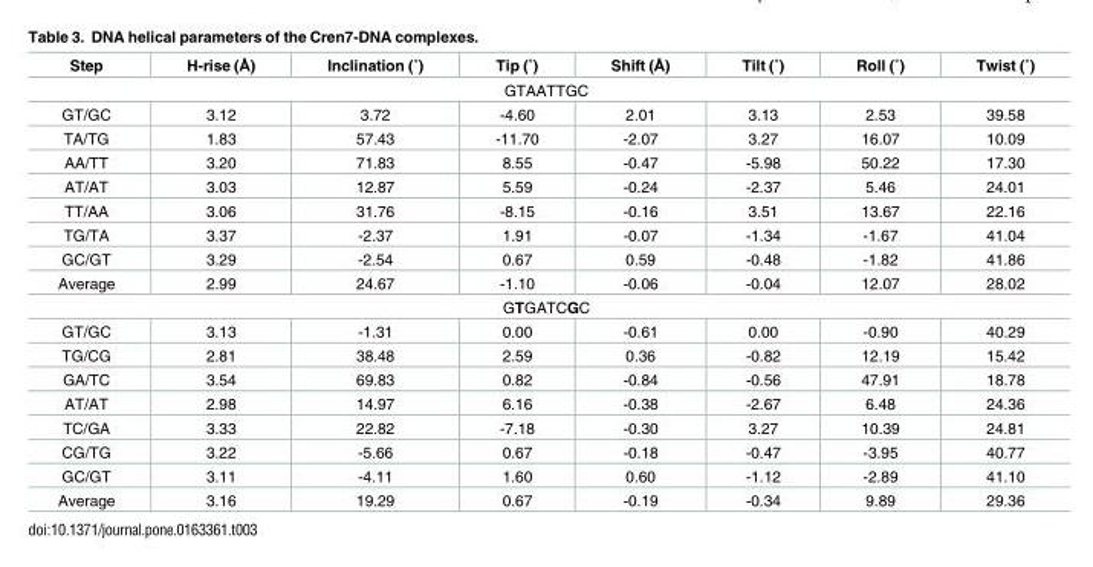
<table><thead><tr><td>Step</td><td>H-rise (Å)</td><td>Inclination (˚)</td><td>Tip (˚)</td><td>Shift (Å)</td><td>Tilt (˚)</td><td>Roll (˚)</td><td>Twist (˚)</td></tr></thead><tbody><tr><td colspan="8">GTAATTGC</td></tr><tr><td>GT/GC</td><td>3.12</td><td>3.72</td><td>-4.60</td><td>2.01</td><td>3.13</td><td>2.53</td><td>39.58</td></tr><tr><td>TA/TG</td><td>1.83</td><td>57.43</td><td>-11.70</td><td>-2.07</td><td>3.27</td><td>16.07</td><td>10.09</td></tr><tr><td>AA/TT</td><td>3.20</td><td>71.83</td><td>8.55</td><td>-0.47</td><td>-5.98</td><td>50.22</td><td>17.30</td></tr><tr><td>AT/AT</td><td>3.03</td><td>12.87</td><td>5.59</td><td>-0.24</td><td>-2.37</td><td>5.46</td><td>24.01</td></tr><tr><td>TT/AA</td><td>3.06</td><td>31.76</td><td>-8.15</td><td>-0.16</td><td>3.51</td><td>13.67</td><td>22.16</td></tr><tr><td>TG/TA</td><td>3.37</td><td>-2.37</td><td>1.91</td><td>-0.07</td><td>-1.34</td><td>-1.67</td><td>41.04</td></tr><tr><td>GC/GT</td><td>3.29</td><td>-2.54</td><td>0.67</td><td>0.59</td><td>-0.48</td><td>-1.82</td><td>41.86</td></tr><tr><td>Average</td><td>2.99</td><td>24.67</td><td>-1.10</td><td>-0.06</td><td>-0.04</td><td>12.07</td><td>28.02</td></tr><tr><td colspan="8">GTGATCGC</td></tr><tr><td>GT/GC</td><td>3.13</td><td>-1.31</td><td>0.00</td><td>-0.61</td><td>0.00</td><td>-0.90</td><td>40.29</td></tr><tr><td>TG/CG</td><td>2.81</td><td>38.48</td><td>2.59</td><td>0.36</td><td>-0.82</td><td>12.19</td><td>15.42</td></tr><tr><td>GA/TC</td><td>3.54</td><td>69.83</td><td>0.82</td><td>-0.84</td><td>-0.56</td><td>47.91</td><td>18.78</td></tr><tr><td>AT/AT</td><td>2.98</td><td>14.97</td><td>6.16</td><td>-0.38</td><td>-2.67</td><td>6.48</td><td>24.36</td></tr><tr><td>TC/GA</td><td>3.33</td><td>22.82</td><td>-7.18</td><td>-0.30</td><td>3.27</td><td>10.39</td><td>24.81</td></tr><tr><td>CG/TG</td><td>3.22</td><td>-5.66</td><td>0.67</td><td>-0.18</td><td>-0.47</td><td>-3.95</td><td>40.77</td></tr><tr><td>GC/GT</td><td>3.11</td><td>-4.11</td><td>1.60</td><td>0.60</td><td>-1.12</td><td>-2.89</td><td>41.10</td></tr><tr><td>Average</td><td>3.16</td><td>19.29</td><td>0.67</td><td>-0.19</td><td>-0.34</td><td>9.89</td><td>29.36</td></tr></tbody></table>